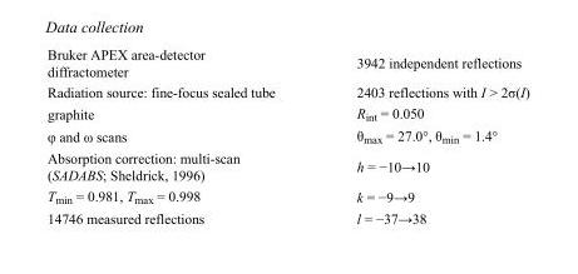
<table><tbody><tr><td>Bruker APEX area-detector diffractometer</td><td>3942 independent reflections</td></tr><tr><td>Radiation source: fine-focus sealed tube</td><td>2403 reflections with I &gt; 2σ(I)</td></tr><tr><td>graphite</td><td>R<sub>int</sub> = 0.050</td></tr><tr><td>φ and ω scans</td><td>θ<sub>max</sub> = 27.0°, θ<sub>min</sub> = 1.4°</td></tr><tr><td>Absorption correction: multi-scan (SADABS; Sheldrick, 1996)</td><td>h = −10→10</td></tr><tr><td>T<sub>min</sub> = 0.981, T<sub>max</sub> = 0.998</td><td>k = −9→9</td></tr><tr><td>14746 measured reflections</td><td>l = −37→38</td></tr></tbody></table>